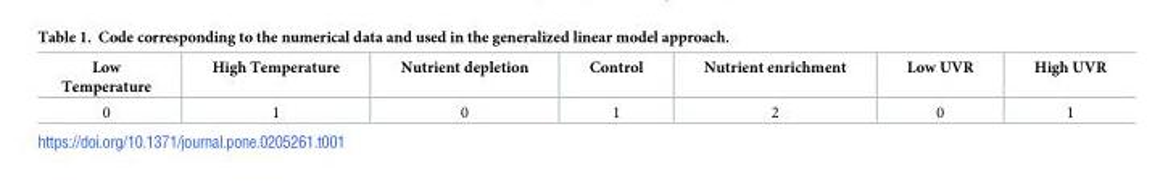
<table><thead><tr><td>Low Temperature</td><td>High Temperature</td><td>Nutrient depletion</td><td>Control</td><td>Nutrient enrichment</td><td>Low UVR</td><td>High UVR</td></tr></thead><tbody><tr><td>0</td><td>1</td><td>0</td><td>1</td><td>2</td><td>0</td><td>1</td></tr></tbody></table>